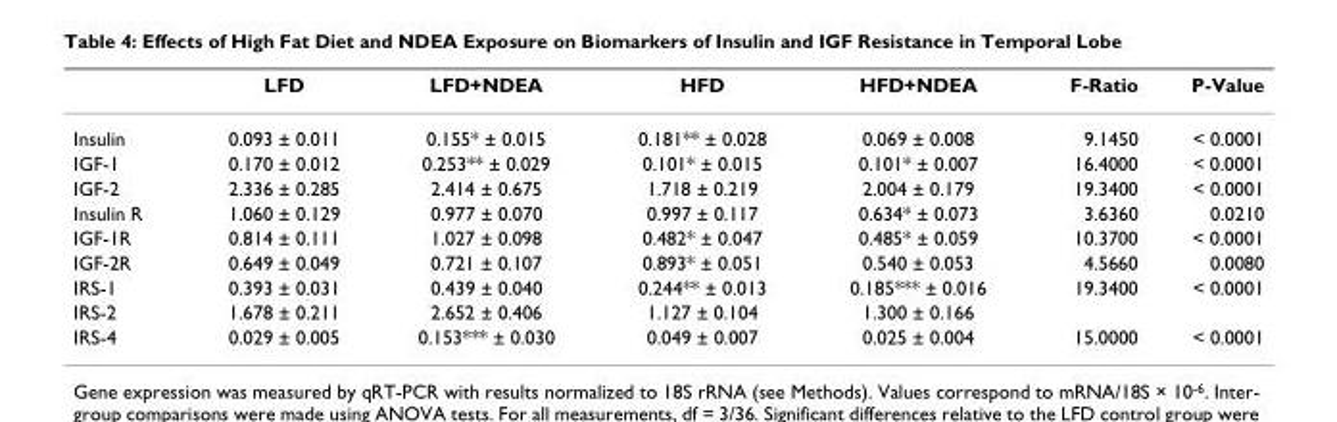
<table><thead><tr><td></td><td>LFD</td><td>LFD+NDEA</td><td>HFD</td><td>HFD+NDEA</td><td>F-Ratio</td><td>P-Value</td></tr></thead><tbody><tr><td>Insulin</td><td>0.093 ± 0.011</td><td>0.155* ± 0.015</td><td>0.181** ± 0.028</td><td>0.069 ± 0.008</td><td>9.1450</td><td>&lt; 0.0001</td></tr><tr><td>IGF-1</td><td>0.170 ± 0.012</td><td>0.253** ± 0.029</td><td>0.101* ± 0.015</td><td>0.101* ± 0.007</td><td>16.4000</td><td>&lt; 0.0001</td></tr><tr><td>IGF-2</td><td>2.336 ± 0.285</td><td>2.414 ± 0.675</td><td>1.718 ± 0.219</td><td>2.004 ± 0.179</td><td>19.3400</td><td>&lt; 0.0001</td></tr><tr><td>Insulin R</td><td>1.060 ± 0.129</td><td>0.977 ± 0.070</td><td>0.997 ± 0.117</td><td>0.634* ± 0.073</td><td>3.6360</td><td>0.0210</td></tr><tr><td>IGF-1R</td><td>0.814 ± 0.111</td><td>1.027 ± 0.098</td><td>0.482* ± 0.047</td><td>0.485* ± 0.059</td><td>10.3700</td><td>&lt; 0.0001</td></tr><tr><td>IGF-2R</td><td>0.649 ± 0.049</td><td>0.721 ± 0.107</td><td>0.893* ± 0.051</td><td>0.540 ± 0.053</td><td>4.5660</td><td>0.0080</td></tr><tr><td>IRS-1</td><td>0.393 ± 0.031</td><td>0.439 ± 0.040</td><td>0.244** ± 0.013</td><td>0.185*** ± 0.016</td><td>19.3400</td><td>&lt; 0.0001</td></tr><tr><td>IRS-2</td><td>1.678 ± 0.211</td><td>2.652 ± 0.406</td><td>1.127 ± 0.104</td><td>1.300 ± 0.166</td><td></td><td></td></tr><tr><td>IRS-4</td><td>0.029 ± 0.005</td><td>0.153*** ± 0.030</td><td>0.049 ± 0.007</td><td>0.025 ± 0.004</td><td>15.0000</td><td>&lt; 0.0001</td></tr></tbody></table>